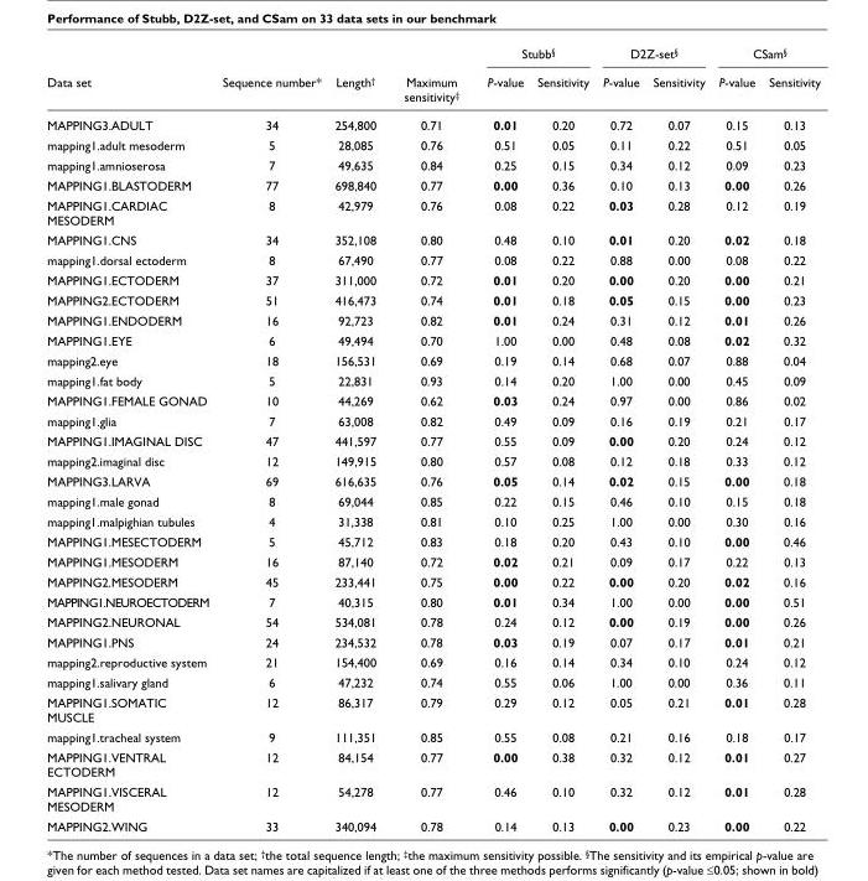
<table><thead><tr><td rowspan="2">Data set</td><td rowspan="2">Sequence number*</td><td rowspan="2">Length<sup>†</sup></td><td rowspan="2">Maximum sensitivity<sup>‡</sup></td><td colspan="2">Stubb<sup>§</sup></td><td colspan="2">D2Z-set<sup>§</sup></td><td colspan="2">CSam<sup>§</sup></td></tr><tr><td>P-value</td><td>Sensitivity</td><td>P-value</td><td>Sensitivity</td><td>P-value</td><td>Sensitivity</td></tr></thead><tbody><tr><td>MAPPING3.ADULT</td><td>34</td><td>254,800</td><td>0.71</td><td>0.01</td><td>0.20</td><td>0.72</td><td>0.07</td><td>0.15</td><td>0.13</td></tr><tr><td>mapping1.adult mesoderm</td><td>5</td><td>28,085</td><td>0.76</td><td>0.51</td><td>0.05</td><td>0.11</td><td>0.22</td><td>0.51</td><td>0.05</td></tr><tr><td>mapping1.amnioserosa</td><td>7</td><td>49,635</td><td>0.84</td><td>0.25</td><td>0.15</td><td>0.34</td><td>0.12</td><td>0.09</td><td>0.23</td></tr><tr><td>MAPPING1.BLASTODERM</td><td>77</td><td>698,840</td><td>0.77</td><td>0.00</td><td>0.36</td><td>0.10</td><td>0.13</td><td>0.00</td><td>0.26</td></tr><tr><td>MAPPING1.CARDIAC MESODERM</td><td>8</td><td>42,979</td><td>0.76</td><td>0.08</td><td>0.22</td><td>0.03</td><td>0.28</td><td>0.12</td><td>0.19</td></tr><tr><td>MAPPING1.CNS</td><td>34</td><td>352,108</td><td>0.80</td><td>0.48</td><td>0.10</td><td>0.01</td><td>0.20</td><td>0.02</td><td>0.18</td></tr><tr><td>mapping1.dorsal ectoderm</td><td>8</td><td>67,490</td><td>0.77</td><td>0.08</td><td>0.22</td><td>0.88</td><td>0.00</td><td>0.08</td><td>0.22</td></tr><tr><td>MAPPING1.ECTODERM</td><td>37</td><td>311,000</td><td>0.72</td><td>0.01</td><td>0.20</td><td>0.00</td><td>0.20</td><td>0.00</td><td>0.21</td></tr><tr><td>MAPPING2.ECTODERM</td><td>51</td><td>416,473</td><td>0.74</td><td>0.01</td><td>0.18</td><td>0.05</td><td>0.15</td><td>0.00</td><td>0.23</td></tr><tr><td>MAPPING1.ENDODERM</td><td>16</td><td>92,723</td><td>0.82</td><td>0.01</td><td>0.24</td><td>0.31</td><td>0.12</td><td>0.01</td><td>0.26</td></tr><tr><td>MAPPING1.EYE</td><td>6</td><td>49,494</td><td>0.70</td><td>1.00</td><td>0.00</td><td>0.48</td><td>0.08</td><td>0.02</td><td>0.32</td></tr><tr><td>mapping2.eye</td><td>18</td><td>156,531</td><td>0.69</td><td>0.19</td><td>0.14</td><td>0.68</td><td>0.07</td><td>0.88</td><td>0.04</td></tr><tr><td>mapping1.fat body</td><td>5</td><td>22,831</td><td>0.93</td><td>0.14</td><td>0.20</td><td>1.00</td><td>0.00</td><td>0.45</td><td>0.09</td></tr><tr><td>MAPPING1.FEMALE GONAD</td><td>10</td><td>44,269</td><td>0.62</td><td>0.03</td><td>0.24</td><td>0.97</td><td>0.00</td><td>0.86</td><td>0.02</td></tr><tr><td>mapping1.glia</td><td>7</td><td>63,008</td><td>0.82</td><td>0.49</td><td>0.09</td><td>0.16</td><td>0.19</td><td>0.21</td><td>0.17</td></tr><tr><td>MAPPING1.IMAGINAL DISC</td><td>47</td><td>441,597</td><td>0.77</td><td>0.55</td><td>0.09</td><td>0.00</td><td>0.20</td><td>0.24</td><td>0.12</td></tr><tr><td>mapping2.imaginal disc</td><td>12</td><td>149,915</td><td>0.80</td><td>0.57</td><td>0.08</td><td>0.12</td><td>0.18</td><td>0.33</td><td>0.12</td></tr><tr><td>MAPPING3.LARVA</td><td>69</td><td>616,635</td><td>0.76</td><td>0.05</td><td>0.14</td><td>0.02</td><td>0.15</td><td>0.00</td><td>0.18</td></tr><tr><td>mapping1.male gonad</td><td>8</td><td>69,044</td><td>0.85</td><td>0.22</td><td>0.15</td><td>0.46</td><td>0.10</td><td>0.15</td><td>0.18</td></tr><tr><td>mapping1.malpighian tubules</td><td>4</td><td>31,338</td><td>0.81</td><td>0.10</td><td>0.25</td><td>1.00</td><td>0.00</td><td>0.30</td><td>0.16</td></tr><tr><td>MAPPING1.MESECTODERM</td><td>5</td><td>45,712</td><td>0.83</td><td>0.18</td><td>0.20</td><td>0.43</td><td>0.10</td><td>0.00</td><td>0.46</td></tr><tr><td>MAPPING1.MESODERM</td><td>16</td><td>87,140</td><td>0.72</td><td>0.02</td><td>0.21</td><td>0.09</td><td>0.17</td><td>0.22</td><td>0.13</td></tr><tr><td>MAPPING2.MESODERM</td><td>45</td><td>233,441</td><td>0.75</td><td>0.00</td><td>0.22</td><td>0.00</td><td>0.20</td><td>0.02</td><td>0.16</td></tr><tr><td>MAPPING1.NEUROECTODERM</td><td>7</td><td>40,315</td><td>0.80</td><td>0.01</td><td>0.34</td><td>1.00</td><td>0.00</td><td>0.00</td><td>0.51</td></tr><tr><td>MAPPING2.NEURONAL</td><td>54</td><td>534,081</td><td>0.78</td><td>0.24</td><td>0.12</td><td>0.00</td><td>0.19</td><td>0.00</td><td>0.26</td></tr><tr><td>MAPPING1.PNS</td><td>24</td><td>234,532</td><td>0.78</td><td>0.03</td><td>0.19</td><td>0.07</td><td>0.17</td><td>0.01</td><td>0.21</td></tr><tr><td>mapping2.reproductive system</td><td>21</td><td>154,400</td><td>0.69</td><td>0.16</td><td>0.14</td><td>0.34</td><td>0.10</td><td>0.24</td><td>0.12</td></tr><tr><td>mapping1.salivary gland</td><td>6</td><td>47,232</td><td>0.74</td><td>0.55</td><td>0.06</td><td>1.00</td><td>0.00</td><td>0.36</td><td>0.11</td></tr><tr><td>MAPPING1.SOMATIC MUSCLE</td><td>12</td><td>86,317</td><td>0.79</td><td>0.29</td><td>0.12</td><td>0.05</td><td>0.21</td><td>0.01</td><td>0.28</td></tr><tr><td>mapping1.tracheal system</td><td>9</td><td>111,351</td><td>0.85</td><td>0.55</td><td>0.08</td><td>0.21</td><td>0.16</td><td>0.18</td><td>0.17</td></tr><tr><td>MAPPING1.VENTRAL ECTODERM</td><td>12</td><td>84,154</td><td>0.77</td><td>0.00</td><td>0.38</td><td>0.32</td><td>0.12</td><td>0.01</td><td>0.27</td></tr><tr><td>MAPPING1.VISCERAL MESODERM</td><td>12</td><td>54,278</td><td>0.77</td><td>0.46</td><td>0.10</td><td>0.32</td><td>0.12</td><td>0.01</td><td>0.28</td></tr><tr><td>MAPPING2.WING</td><td>33</td><td>340,094</td><td>0.78</td><td>0.14</td><td>0.13</td><td>0.00</td><td>0.23</td><td>0.00</td><td>0.22</td></tr></tbody></table>